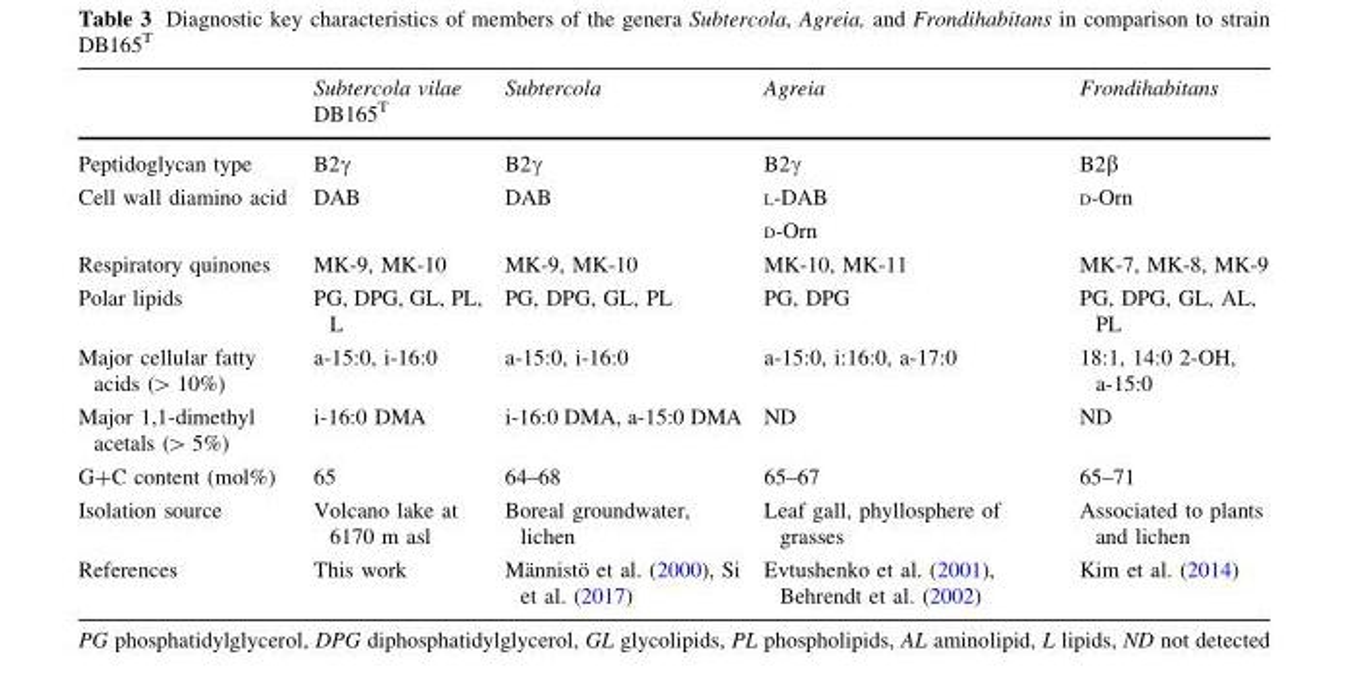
<table><thead><tr><td></td><td>Subtercola vilae DB165<sup>T</sup></td><td>Subtercola</td><td>Agreia</td><td>Frondihabitans</td></tr></thead><tbody><tr><td>Peptidoglycan type</td><td>B2γ</td><td>B2γ</td><td>B2γ</td><td>B2β</td></tr><tr><td rowspan="2">Cell wall diamino acid</td><td rowspan="2">DAB</td><td rowspan="2">DAB</td><td>L-DAB</td><td>D-Orn</td></tr><tr><td>D-Orn</td><td></td></tr><tr><td>Respiratory quinones</td><td>MK-9, MK-10</td><td>MK-9, MK-10</td><td>MK-10, MK-11</td><td>MK-7, MK-8, MK-9</td></tr><tr><td>Polar lipids</td><td>PG, DPG, GL, PL, L</td><td>PG, DPG, GL, PL</td><td>PG, DPG</td><td>PG, DPG, GL, AL, PL</td></tr><tr><td>Major cellular fatty acids (&gt; 10%)</td><td>a-15:0, i-16:0</td><td>a-15:0, i-16:0</td><td>a-15:0, i:16:0, a-17:0</td><td>18:1, 14:0 2-OH, a-15:0</td></tr><tr><td>Major 1,1-dimethyl acetals (&gt; 5%)</td><td>i-16:0 DMA</td><td>i-16:0 DMA, a-15:0 DMA</td><td>ND</td><td>ND</td></tr><tr><td>G+C content (mol%)</td><td>65</td><td>64–68</td><td>65–67</td><td>65–71</td></tr><tr><td>Isolation source</td><td>Volcano lake at 6170 m asl</td><td>Boreal groundwater, lichen</td><td>Leaf gall, phyllosphere of grasses</td><td>Associated to plants and lichen</td></tr><tr><td>References</td><td>This work</td><td>Ma¨nnisto¨ et al. (2000), Si et al. (2017)</td><td>Evtushenko et al. (2001), Behrendt et al. (2002)</td><td>Kim et al. (2014)</td></tr></tbody></table>